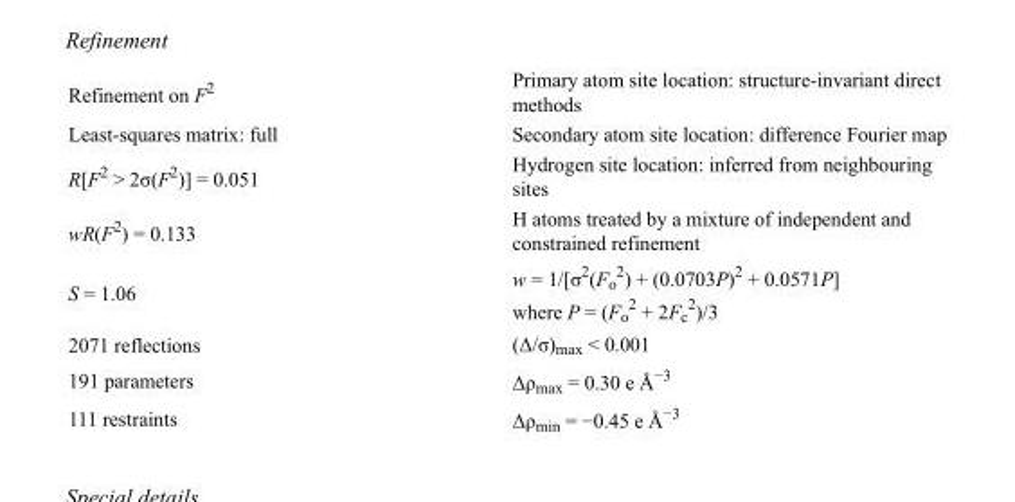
<table><tbody><tr><td>Refinement on F<sup>2</sup></td><td>Primary atom site location: structure-invariant direct methods</td></tr><tr><td>Least-squares matrix: full</td><td>Secondary atom site location: difference Fourier map</td></tr><tr><td>R[F<sup>2</sup> &gt; 2σ(F<sup>2</sup>)] = 0.051</td><td>Hydrogen site location: inferred from neighbouring sites</td></tr><tr><td>wR(F<sup>2</sup>) = 0.133</td><td>H atoms treated by a mixture of independent and constrained refinement</td></tr><tr><td>S = 1.06</td><td>w = 1/[σ<sup>2</sup>(F<sub>o</sub> <sup>2</sup>) + (0.0703P)<sup>2</sup> + 0.0571P] where P = (F<sub>o</sub> <sup>2</sup> + 2F<sub>c</sub> <sup>2</sup>)/3</td></tr><tr><td>2071 reflections</td><td>(Δ/σ)<sub>max</sub> &lt; 0.001</td></tr><tr><td>191 parameters</td><td>Δρ<sub>max</sub> = 0.30 e Å<sup>−3</sup></td></tr><tr><td>111 restraints</td><td>Δρ<sub>min</sub> = −0.45 e Å<sup>−3</sup></td></tr></tbody></table>